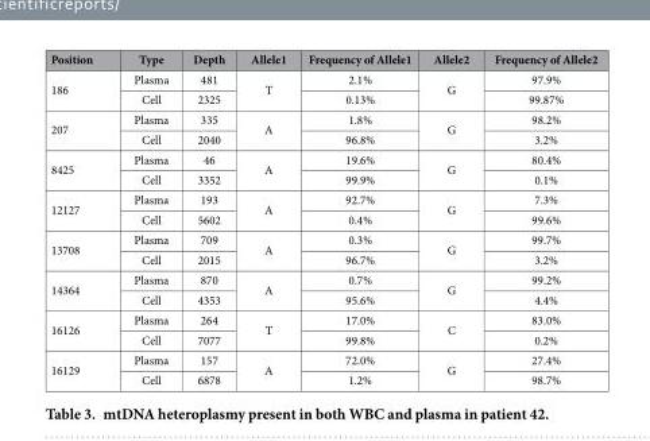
<table><thead><tr><td>Position</td><td>Type</td><td>Depth</td><td>Allele1</td><td>Frequency of Allele1</td><td>Allele2</td><td>Frequency of Allele2</td></tr></thead><tbody><tr><td rowspan="2">186</td><td>Plasma</td><td>481</td><td rowspan="2">T</td><td>2.1%</td><td rowspan="2">G</td><td>97.9%</td></tr><tr><td>Cell</td><td>2325</td><td>0.13%</td><td>99.87%</td></tr><tr><td rowspan="2">207</td><td>Plasma</td><td>335</td><td rowspan="2">A</td><td>1.8%</td><td rowspan="2">G</td><td>98.2%</td></tr><tr><td>Cell</td><td>2040</td><td>96.8%</td><td>3.2%</td></tr><tr><td rowspan="2">8425</td><td>Plasma</td><td>46</td><td rowspan="2">A</td><td>19.6%</td><td rowspan="2">G</td><td>80.4%</td></tr><tr><td>Cell</td><td>3352</td><td>99.9%</td><td>0.1%</td></tr><tr><td rowspan="2">12127</td><td>Plasma</td><td>193</td><td rowspan="2">A</td><td>92.7%</td><td rowspan="2">G</td><td>7.3%</td></tr><tr><td>Cell</td><td>5602</td><td>0.4%</td><td>99.6%</td></tr><tr><td rowspan="2">13708</td><td>Plasma</td><td>709</td><td rowspan="2">A</td><td>0.3%</td><td rowspan="2">G</td><td>99.7%</td></tr><tr><td>Cell</td><td>2015</td><td>96.7%</td><td>3.2%</td></tr><tr><td rowspan="2">14364</td><td>Plasma</td><td>870</td><td rowspan="2">A</td><td>0.7%</td><td rowspan="2">G</td><td>99.2%</td></tr><tr><td>Cell</td><td>4353</td><td>95.6%</td><td>4.4%</td></tr><tr><td rowspan="2">16126</td><td>Plasma</td><td>264</td><td rowspan="2">T</td><td>17.0%</td><td rowspan="2">C</td><td>83.0%</td></tr><tr><td>Cell</td><td>7077</td><td>99.8%</td><td>0.2%</td></tr><tr><td rowspan="2">16129</td><td>Plasma</td><td>157</td><td rowspan="2">A</td><td>72.0%</td><td rowspan="2">G</td><td>27.4%</td></tr><tr><td>Cell</td><td>6878</td><td>1.2%</td><td>98.7%</td></tr></tbody></table>